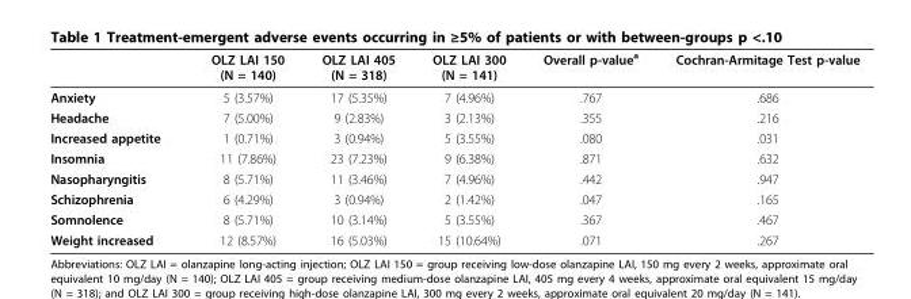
<table><thead><tr><td></td><td>OLZ LAI 150 (N = 140)</td><td>OLZ LAI 405 (N = 318)</td><td>OLZ LAI 300 (N = 141)</td><td>Overall p-value<sup>a</sup></td><td>Cochran-Armitage Test p-value</td></tr></thead><tbody><tr><td>Anxiety</td><td>5 (3.57%)</td><td>17 (5.35%)</td><td>7 (4.96%)</td><td>.767</td><td>.686</td></tr><tr><td>Headache</td><td>7 (5.00%)</td><td>9 (2.83%)</td><td>3 (2.13%)</td><td>.355</td><td>.216</td></tr><tr><td>Increased appetite</td><td>1 (0.71%)</td><td>3 (0.94%)</td><td>5 (3.55%)</td><td>.080</td><td>.031</td></tr><tr><td>Insomnia</td><td>11 (7.86%)</td><td>23 (7.23%)</td><td>9 (6.38%)</td><td>.871</td><td>.632</td></tr><tr><td>Nasopharyngitis</td><td>8 (5.71%)</td><td>11 (3.46%)</td><td>7 (4.96%)</td><td>.442</td><td>.947</td></tr><tr><td>Schizophrenia</td><td>6 (4.29%)</td><td>3 (0.94%)</td><td>2 (1.42%)</td><td>.047</td><td>.165</td></tr><tr><td>Somnolence</td><td>8 (5.71%)</td><td>10 (3.14%)</td><td>5 (3.55%)</td><td>.367</td><td>.467</td></tr><tr><td>Weight increased</td><td>12 (8.57%)</td><td>16 (5.03%)</td><td>15 (10.64%)</td><td>.071</td><td>.267</td></tr></tbody></table>